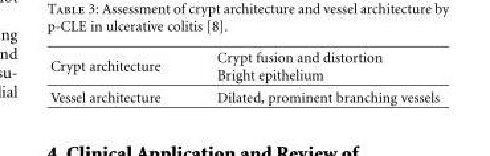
<table><thead><tr><td>Crypt architecture</td><td>Crypt fusion and distortion Bright epithelium</td></tr></thead><tbody><tr><td>Vessel architecture</td><td>Dilated, prominent branching vessels</td></tr></tbody></table>